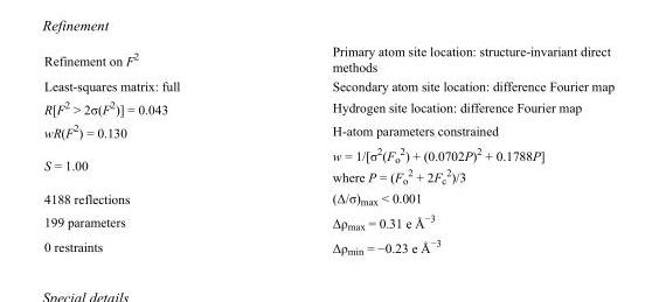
<table><tbody><tr><td>Refinement on F<sup>2</sup></td><td>Primary atom site location: structure-invariant direct methods</td></tr><tr><td>Least-squares matrix: full</td><td>Secondary atom site location: difference Fourier map</td></tr><tr><td>R[F<sup>2</sup> &gt; 2σ(F<sup>2</sup>)] = 0.043</td><td>Hydrogen site location: difference Fourier map</td></tr><tr><td>wR(F<sup>2</sup>) = 0.130</td><td>H-atom parameters constrained</td></tr><tr><td>S = 1.00</td><td>w = 1/[σ<sup>2</sup>(F<sub>o</sub> <sup>2</sup>) + (0.0702P)<sup>2</sup> + 0.1788P] where P = (F<sub>o</sub> <sup>2</sup> + 2F<sub>c</sub> <sup>2</sup>)/3</td></tr><tr><td>4188 reflections</td><td>(Δ/σ)<sub>max</sub> &lt; 0.001</td></tr><tr><td>199 parameters</td><td>Δρ<sub>max</sub> = 0.31 e Å<sup>−3</sup></td></tr><tr><td>0 restraints</td><td>Δρ<sub>min</sub> = −0.23 e Å<sup>−3</sup></td></tr></tbody></table>